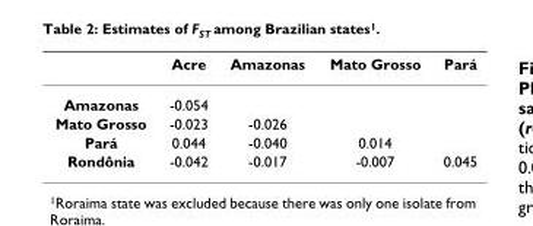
<table><thead><tr><td></td><td>Acre</td><td>Amazonas</td><td>Mato Grosso</td><td>Pará</td></tr></thead><tbody><tr><td>Amazonas</td><td>-0.054</td><td></td><td></td><td></td></tr><tr><td>Mato Grosso</td><td>-0.023</td><td>-0.026</td><td></td><td></td></tr><tr><td>Pará</td><td>0.044</td><td>-0.040</td><td>0.014</td><td></td></tr><tr><td>Rondônia</td><td>-0.042</td><td>-0.017</td><td>-0.007</td><td>0.045</td></tr></tbody></table>